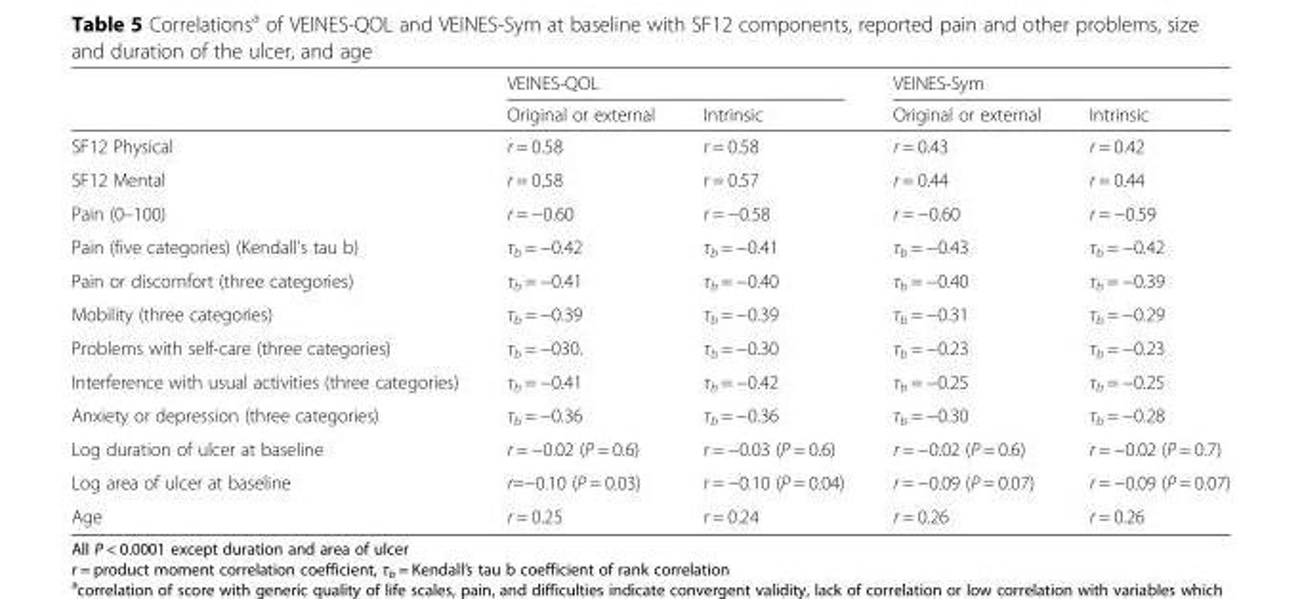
<table><thead><tr><td rowspan="2"></td><td colspan="2">VEINES-QOL</td><td colspan="2">VEINES-Sym</td></tr><tr><td>Original or external</td><td>Intrinsic</td><td>Original or external</td><td>Intrinsic</td></tr></thead><tbody><tr><td>SF12 Physical</td><td>r = 0.58</td><td>r = 0.58</td><td>r = 0.43</td><td>r = 0.42</td></tr><tr><td>SF12 Mental</td><td>r = 0.58</td><td>r = 0.57</td><td>r = 0.44</td><td>r = 0.44</td></tr><tr><td>Pain (0–100)</td><td>r = −0.60</td><td>r = −0.58</td><td>r = −0.60</td><td>r = −0.59</td></tr><tr><td>Pain (five categories) (Kendall’s tau b)</td><td>τ<sub>b</sub> = −0.42</td><td>τ<sub>b</sub> = −0.41</td><td>τ<sub>b</sub> = −0.43</td><td>τ<sub>b</sub> = −0.42</td></tr><tr><td>Pain or discomfort (three categories)</td><td>τ<sub>b</sub> = −0.41</td><td>τ<sub>b</sub> = −0.40</td><td>τ<sub>b</sub> = −0.40</td><td>τ<sub>b</sub> = −0.39</td></tr><tr><td>Mobility (three categories)</td><td>τ<sub>b</sub> = −0.39</td><td>τ<sub>b</sub> = −0.39</td><td>τ<sub>b</sub> = −0.31</td><td>τ<sub>b</sub> = −0.29</td></tr><tr><td>Problems with self-care (three categories)</td><td>τ<sub>b</sub> = −030.</td><td>τ<sub>b</sub> = −0.30</td><td>τ<sub>b</sub> = −0.23</td><td>τ<sub>b</sub> = −0.23</td></tr><tr><td>Interference with usual activities (three categories)</td><td>τ<sub>b</sub> = −0.41</td><td>τ<sub>b</sub> = −0.42</td><td>τ<sub>b</sub> = −0.25</td><td>τ<sub>b</sub> = −0.25</td></tr><tr><td>Anxiety or depression (three categories)</td><td>τ<sub>b</sub> = −0.36</td><td>τ<sub>b</sub> = −0.36</td><td>τ<sub>b</sub> = −0.30</td><td>τ<sub>b</sub> = −0.28</td></tr><tr><td>Log duration of ulcer at baseline</td><td>r = −0.02 (P = 0.6)</td><td>r = −0.03 (P = 0.6)</td><td>r = −0.02 (P = 0.6)</td><td>r = −0.02 (P = 0.7)</td></tr><tr><td>Log area of ulcer at baseline</td><td>r=−0.10 (P = 0.03)</td><td>r = −0.10 (P = 0.04)</td><td>r = −0.09 (P = 0.07)</td><td>r = −0.09 (P = 0.07)</td></tr><tr><td>Age</td><td>r = 0.25</td><td>r = 0.24</td><td>r = 0.26</td><td>r = 0.26</td></tr></tbody></table>